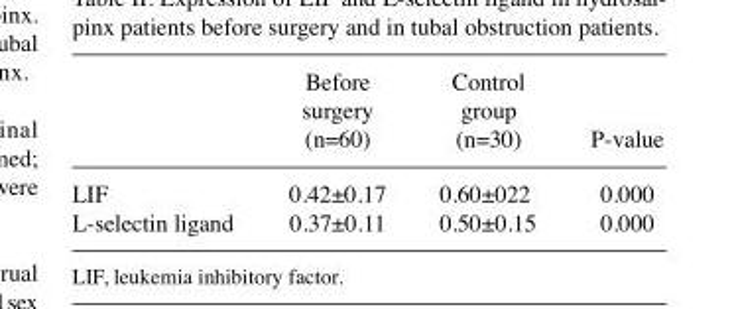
<table><thead><tr><td></td><td>Before surgery (n=60)</td><td>Control group (n=30)</td><td>P-value</td></tr></thead><tbody><tr><td>LIF</td><td>0.42±0.17</td><td>0.60±022</td><td>0.000</td></tr><tr><td>L-selectin ligand</td><td>0.37±0.11</td><td>0.50±0.15</td><td>0.000</td></tr></tbody></table>